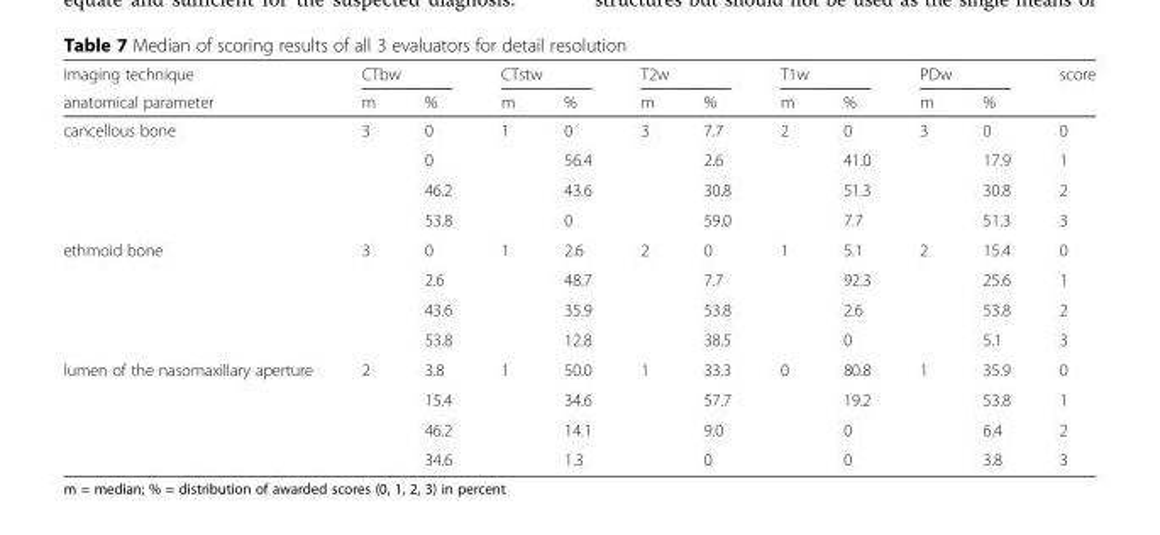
<table><thead><tr><td rowspan="2">Imaging technique anatomical parameter</td><td colspan="2">CTbw</td><td colspan="2">CTstw</td><td colspan="2">T2w</td><td colspan="2">T1w</td><td colspan="2">PDw</td><td rowspan="2">score</td></tr><tr><td>m</td><td>%</td><td>m</td><td>%</td><td>m</td><td>%</td><td>m</td><td>%</td><td>m</td><td>%</td></tr></thead><tbody><tr><td rowspan="4">cancellous bone</td><td rowspan="4">3</td><td>0</td><td rowspan="4">1</td><td>0</td><td rowspan="4">3</td><td>7.7</td><td rowspan="4">2</td><td>0</td><td rowspan="4">3</td><td>0</td><td>0</td></tr><tr><td>0</td><td>56.4</td><td>2.6</td><td>41.0</td><td>17.9</td><td>1</td></tr><tr><td>46.2</td><td>43.6</td><td>30.8</td><td>51.3</td><td>30.8</td><td>2</td></tr><tr><td>53.8</td><td>0</td><td>59.0</td><td>7.7</td><td>51.3</td><td>3</td></tr><tr><td rowspan="4">ethmoid bone</td><td rowspan="4">3</td><td>0</td><td rowspan="4">1</td><td>2.6</td><td rowspan="4">2</td><td>0</td><td rowspan="4">1</td><td>5.1</td><td rowspan="4">2</td><td>15.4</td><td>0</td></tr><tr><td>2.6</td><td>48.7</td><td>7.7</td><td>92.3</td><td>25.6</td><td>1</td></tr><tr><td>43.6</td><td>35.9</td><td>53.8</td><td>2.6</td><td>53.8</td><td>2</td></tr><tr><td>53.8</td><td>12.8</td><td>38.5</td><td>0</td><td>5.1</td><td>3</td></tr><tr><td rowspan="4">lumen of the nasomaxillary aperture</td><td rowspan="4">2</td><td>3.8</td><td rowspan="4">1</td><td>50.0</td><td rowspan="4">1</td><td>33.3</td><td rowspan="4">0</td><td>80.8</td><td rowspan="4">1</td><td>35.9</td><td>0</td></tr><tr><td>15.4</td><td>34.6</td><td>57.7</td><td>19.2</td><td>53.8</td><td>1</td></tr><tr><td>46.2</td><td>14.1</td><td>9.0</td><td>0</td><td>6.4</td><td>2</td></tr><tr><td>34.6</td><td>1.3</td><td>0</td><td>0</td><td>3.8</td><td>3</td></tr></tbody></table>